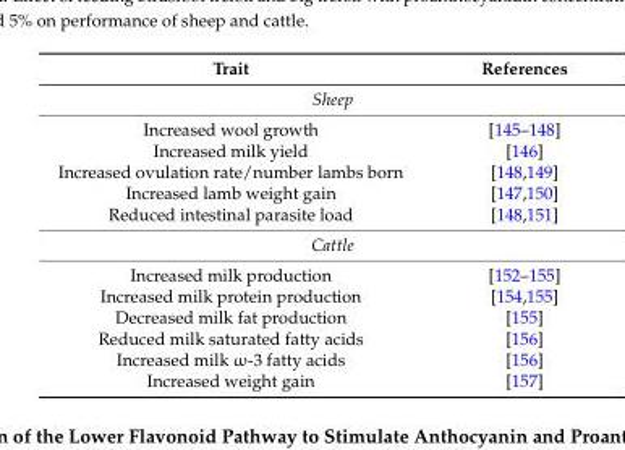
<table><thead><tr><td>Trait</td><td>References</td></tr></thead><tbody><tr><td colspan="2">Sheep</td></tr><tr><td>Increased wool growth</td><td>[145–148]</td></tr><tr><td>Increased milk yield</td><td>[146]</td></tr><tr><td>Increased ovulation rate/number lambs born</td><td>[148,149]</td></tr><tr><td>Increased lamb weight gain</td><td>[147,150]</td></tr><tr><td>Reduced intestinal parasite load</td><td>[148,151]</td></tr><tr><td colspan="2">Cattle</td></tr><tr><td>Increased milk production</td><td>[152–155]</td></tr><tr><td>Increased milk protein production</td><td>[154,155]</td></tr><tr><td>Decreased milk fat production</td><td>[155]</td></tr><tr><td>Reduced milk saturated fatty acids</td><td>[156]</td></tr><tr><td>Increased milk ω-3 fatty acids</td><td>[156]</td></tr><tr><td>Increased weight gain</td><td>[157]</td></tr></tbody></table>